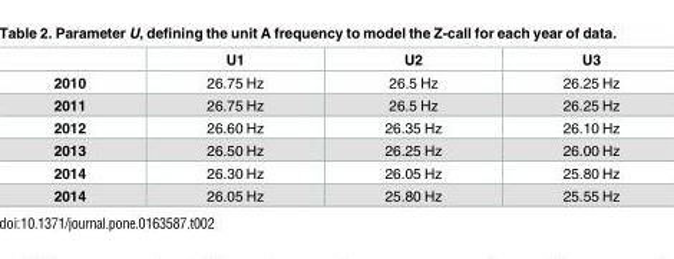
<table><thead><tr><td></td><td>U1</td><td>U2</td><td>U3</td></tr></thead><tbody><tr><td>2010</td><td>26.75 Hz</td><td>26.5 Hz</td><td>26.25 Hz</td></tr><tr><td>2011</td><td>26.75 Hz</td><td>26.5 Hz</td><td>26.25 Hz</td></tr><tr><td>2012</td><td>26.60 Hz</td><td>26.35 Hz</td><td>26.10 Hz</td></tr><tr><td>2013</td><td>26.50 Hz</td><td>26.25 Hz</td><td>26.00 Hz</td></tr><tr><td>2014</td><td>26.30 Hz</td><td>26.05 Hz</td><td>25.80 Hz</td></tr><tr><td>2014</td><td>26.05 Hz</td><td>25.80 Hz</td><td>25.55 Hz</td></tr></tbody></table>